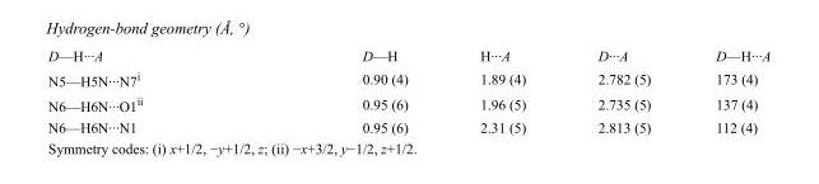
<table><tbody><tr><td>D—H···A</td><td>D—H</td><td>H···A</td><td>D···A</td><td>D—H···A</td></tr><tr><td>N5—H5N···N7<sup>i</sup></td><td>0.90 (4)</td><td>1.89 (4)</td><td>2.782 (5)</td><td>173 (4)</td></tr><tr><td>N6—H6N···O1<sup>ii</sup></td><td>0.95 (6)</td><td>1.96 (5)</td><td>2.735 (5)</td><td>137 (4)</td></tr><tr><td>N6—H6N···N1</td><td>0.95 (6)</td><td>2.31 (5)</td><td>2.813 (5)</td><td>112 (4)</td></tr></tbody></table>